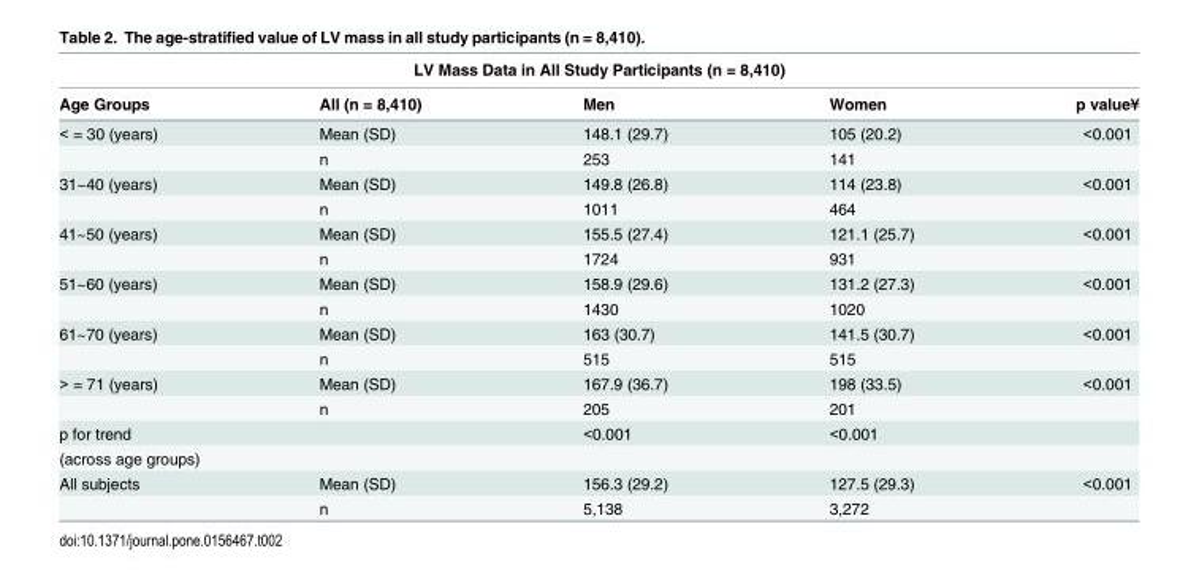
<table><thead><tr><td colspan="5">LV Mass Data in All Study Participants (n = 8,410)</td></tr><tr><td>Age Groups</td><td>All (n = 8,410)</td><td>Men</td><td>Women</td><td>p value¥</td></tr></thead><tbody><tr><td rowspan="2">&lt; = 30 (years)</td><td>Mean (SD)</td><td>148.1 (29.7)</td><td>105 (20.2)</td><td>&lt;0.001</td></tr><tr><td>n</td><td>253</td><td>141</td><td></td></tr><tr><td rowspan="2">31~40 (years)</td><td>Mean (SD)</td><td>149.8 (26.8)</td><td>114 (23.8)</td><td>&lt;0.001</td></tr><tr><td>n</td><td>1011</td><td>464</td><td></td></tr><tr><td rowspan="2">41~50 (years)</td><td>Mean (SD)</td><td>155.5 (27.4)</td><td>121.1 (25.7)</td><td>&lt;0.001</td></tr><tr><td>n</td><td>1724</td><td>931</td><td></td></tr><tr><td rowspan="2">51~60 (years)</td><td>Mean (SD)</td><td>158.9 (29.6)</td><td>131.2 (27.3)</td><td>&lt;0.001</td></tr><tr><td>n</td><td>1430</td><td>1020</td><td></td></tr><tr><td rowspan="2">61~70 (years)</td><td>Mean (SD)</td><td>163 (30.7)</td><td>141.5 (30.7)</td><td>&lt;0.001</td></tr><tr><td>n</td><td>515</td><td>515</td><td></td></tr><tr><td rowspan="2">&gt; = 71 (years)</td><td>Mean (SD)</td><td>167.9 (36.7)</td><td>198 (33.5)</td><td>&lt;0.001</td></tr><tr><td>n</td><td>205</td><td>201</td><td></td></tr><tr><td>p for trend</td><td></td><td>&lt;0.001</td><td>&lt;0.001</td><td></td></tr><tr><td colspan="5">(across age groups)</td></tr><tr><td rowspan="2">All subjects</td><td>Mean (SD)</td><td>156.3 (29.2)</td><td>127.5 (29.3)</td><td>&lt;0.001</td></tr><tr><td>n</td><td>5,138</td><td>3,272</td><td></td></tr></tbody></table>